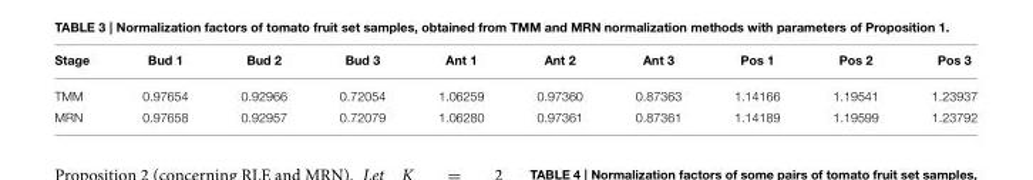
<table><thead><tr><td>Stage</td><td>Bud 1</td><td>Bud 2</td><td>Bud 3</td><td>Ant 1</td><td>Ant 2</td><td>Ant 3</td><td>Pos 1</td><td>Pos 2</td><td>Pos 3</td></tr></thead><tbody><tr><td>TMM</td><td>0.97654</td><td>0.92966</td><td>0.72054</td><td>1.06259</td><td>0.97360</td><td>0.87363</td><td>1.14166</td><td>1.19541</td><td>1.23937</td></tr><tr><td>MRN</td><td>0.97658</td><td>0.92957</td><td>0.72079</td><td>1.06280</td><td>0.97361</td><td>0.87361</td><td>1.14189</td><td>1.19599</td><td>1.23792</td></tr></tbody></table>